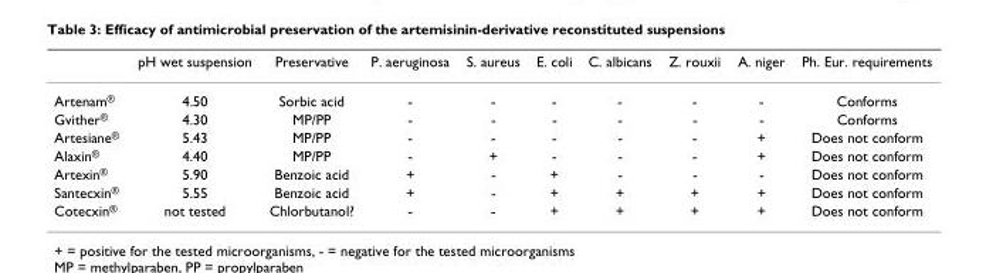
<table><thead><tr><td></td><td>pH wet suspension</td><td>Preservative</td><td>P. aeruginosa</td><td>S. aureus</td><td>E. coli</td><td>C. albicans</td><td>Z. rouxii</td><td>A. niger</td><td>Ph. Eur. requirements</td></tr></thead><tbody><tr><td>Artenam<sup>®</sup></td><td>4.50</td><td>Sorbic acid</td><td>-</td><td>-</td><td>-</td><td>-</td><td>-</td><td>-</td><td>Conforms</td></tr><tr><td>Gvither<sup>®</sup></td><td>4.30</td><td>MP/PP</td><td>-</td><td>-</td><td>-</td><td>-</td><td>-</td><td>-</td><td>Conforms</td></tr><tr><td>Artesiane<sup>®</sup></td><td>5.43</td><td>MP/PP</td><td>-</td><td>-</td><td>-</td><td>-</td><td>-</td><td>+</td><td>Does not conform</td></tr><tr><td>Alaxin<sup>®</sup></td><td>4.40</td><td>MP/PP</td><td>-</td><td>+</td><td>-</td><td>-</td><td>-</td><td>+</td><td>Does not conform</td></tr><tr><td>Artexin<sup>®</sup></td><td>5.90</td><td>Benzoic acid</td><td>+</td><td>-</td><td>+</td><td>-</td><td>-</td><td>-</td><td>Does not conform</td></tr><tr><td>Santecxin<sup>®</sup></td><td>5.55</td><td>Benzoic acid</td><td>+</td><td>-</td><td>+</td><td>+</td><td>+</td><td>+</td><td>Does not conform</td></tr><tr><td>Cotecxin<sup>®</sup></td><td>not tested</td><td>Chlorbutanol?</td><td>-</td><td>-</td><td>+</td><td>+</td><td>+</td><td>+</td><td>Does not conform</td></tr></tbody></table>